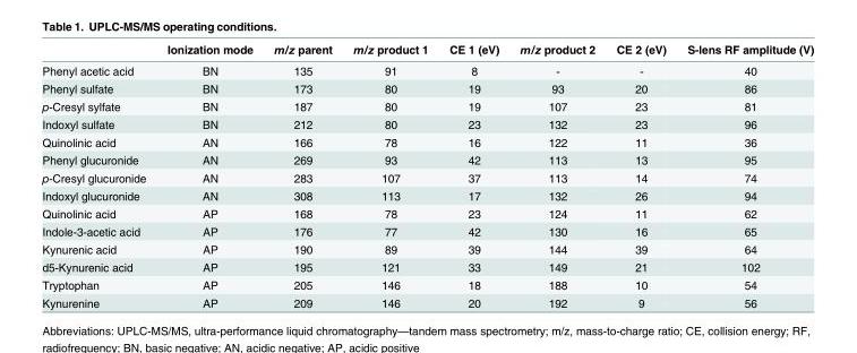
<table><thead><tr><td></td><td>Ionization mode</td><td>m/z parent</td><td>m/z product 1</td><td>CE 1 (eV)</td><td>m/z product 2</td><td>CE 2 (eV)</td><td>S-lens RF amplitude (V)</td></tr></thead><tbody><tr><td>Phenyl acetic acid</td><td>BN</td><td>135</td><td>91</td><td>8</td><td>-</td><td>-</td><td>40</td></tr><tr><td>Phenyl sulfate</td><td>BN</td><td>173</td><td>80</td><td>19</td><td>93</td><td>20</td><td>86</td></tr><tr><td>p-Cresyl sylfate</td><td>BN</td><td>187</td><td>80</td><td>19</td><td>107</td><td>23</td><td>81</td></tr><tr><td>Indoxyl sulfate</td><td>BN</td><td>212</td><td>80</td><td>23</td><td>132</td><td>23</td><td>96</td></tr><tr><td>Quinolinic acid</td><td>AN</td><td>166</td><td>78</td><td>16</td><td>122</td><td>11</td><td>36</td></tr><tr><td>Phenyl glucuronide</td><td>AN</td><td>269</td><td>93</td><td>42</td><td>113</td><td>13</td><td>95</td></tr><tr><td>p-Cresyl glucuronide</td><td>AN</td><td>283</td><td>107</td><td>37</td><td>113</td><td>14</td><td>74</td></tr><tr><td>Indoxyl glucuronide</td><td>AN</td><td>308</td><td>113</td><td>17</td><td>132</td><td>26</td><td>94</td></tr><tr><td>Quinolinic acid</td><td>AP</td><td>168</td><td>78</td><td>23</td><td>124</td><td>11</td><td>62</td></tr><tr><td>Indole-3-acetic acid</td><td>AP</td><td>176</td><td>77</td><td>42</td><td>130</td><td>16</td><td>65</td></tr><tr><td>Kynurenic acid</td><td>AP</td><td>190</td><td>89</td><td>39</td><td>144</td><td>39</td><td>64</td></tr><tr><td>d5-Kynurenic acid</td><td>AP</td><td>195</td><td>121</td><td>33</td><td>149</td><td>21</td><td>102</td></tr><tr><td>Tryptophan</td><td>AP</td><td>205</td><td>146</td><td>18</td><td>188</td><td>10</td><td>54</td></tr><tr><td>Kynurenine</td><td>AP</td><td>209</td><td>146</td><td>20</td><td>192</td><td>9</td><td>56</td></tr></tbody></table>